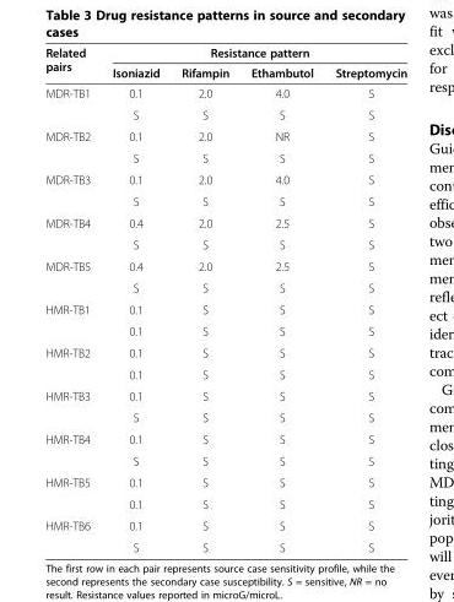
<table><thead><tr><td rowspan="2">Related pairs</td><td colspan="4">Resistance pattern</td></tr><tr><td>Isoniazid</td><td>Rifampin</td><td>Ethambutol</td><td>Streptomycin</td></tr></thead><tbody><tr><td rowspan="2">MDR-TB1</td><td>0.1</td><td>2.0</td><td>4.0</td><td>S</td></tr><tr><td>S</td><td>S</td><td>S</td><td>S</td></tr><tr><td rowspan="2">MDR-TB2</td><td>0.1</td><td>2.0</td><td>NR</td><td>S</td></tr><tr><td>S</td><td>S</td><td>S</td><td>S</td></tr><tr><td rowspan="2">MDR-TB3</td><td>0.1</td><td>2.0</td><td>4.0</td><td>S</td></tr><tr><td>S</td><td>S</td><td>S</td><td>S</td></tr><tr><td rowspan="2">MDR-TB4</td><td>0.4</td><td>2.0</td><td>2.5</td><td>S</td></tr><tr><td>S</td><td>S</td><td>S</td><td>S</td></tr><tr><td rowspan="2">MDR-TB5</td><td>0.4</td><td>2.0</td><td>2.5</td><td>S</td></tr><tr><td>S</td><td>S</td><td>S</td><td>S</td></tr><tr><td rowspan="2">HMR-TB1</td><td>0.1</td><td>S</td><td>S</td><td>S</td></tr><tr><td>0.1</td><td>S</td><td>S</td><td>S</td></tr><tr><td rowspan="2">HMR-TB2</td><td>0.1</td><td>S</td><td>S</td><td>S</td></tr><tr><td>0.1</td><td>S</td><td>S</td><td>S</td></tr><tr><td rowspan="2">HMR-TB3</td><td>0.1</td><td>S</td><td>S</td><td>S</td></tr><tr><td>S</td><td>S</td><td>S</td><td>S</td></tr><tr><td rowspan="2">HMR-TB4</td><td>0.1</td><td>S</td><td>S</td><td>S</td></tr><tr><td>S</td><td>S</td><td>S</td><td>S</td></tr><tr><td rowspan="2">HMR-TB5</td><td>0.1</td><td>S</td><td>S</td><td>S</td></tr><tr><td>0.1</td><td>S</td><td>S</td><td>S</td></tr><tr><td rowspan="2">HMR-TB6</td><td>0.1</td><td>S</td><td>S</td><td>S</td></tr><tr><td>S</td><td>S</td><td>S</td><td>S</td></tr></tbody></table>